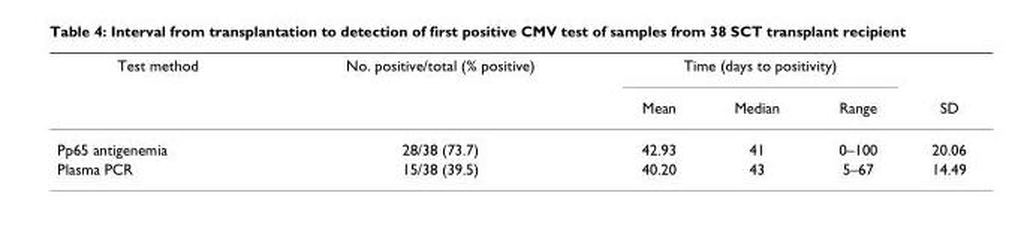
<table><thead><tr><td rowspan="2">Test method</td><td rowspan="2">No. positive/total (% positive)</td><td colspan="3">Time (days to positivity)</td><td rowspan="2">SD</td></tr><tr><td>Mean</td><td>Median</td><td>Range</td></tr></thead><tbody><tr><td>Pp65 antigenemia</td><td>28/38 (73.7)</td><td>42.93</td><td>41</td><td>0–100</td><td>20.06</td></tr><tr><td>Plasma PCR</td><td>15/38 (39.5)</td><td>40.20</td><td>43</td><td>5–67</td><td>14.49</td></tr></tbody></table>